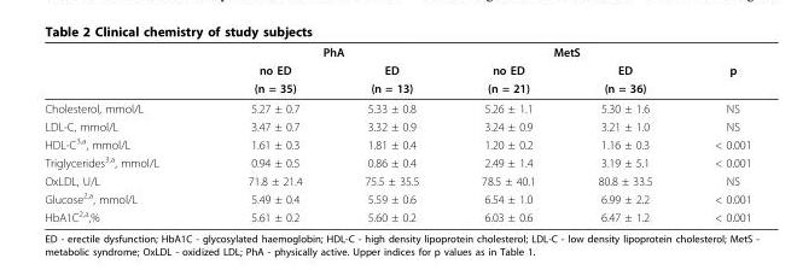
<table><thead><tr><td rowspan="3"></td><td colspan="2">PhA</td><td colspan="2">MetS</td><td rowspan="3">p</td></tr><tr><td rowspan="2">no ED (n = 35)</td><td rowspan="2">ED (n = 13)</td><td rowspan="2">no ED (n = 21)</td><td rowspan="2">ED (n = 36)</td></tr><tr></tr></thead><tbody><tr><td>Cholesterol, mmol/L</td><td>5.27 ± 0.7</td><td>5.33 ± 0.8</td><td>5.26 ± 1.1</td><td>5.30 ± 1.6</td><td>NS</td></tr><tr><td>LDL-C, mmol/L</td><td>3.47 ± 0.7</td><td>3.32 ± 0.9</td><td>3.24 ± 0.9</td><td>3.21 ± 1.0</td><td>NS</td></tr><tr><td>HDL-C<sup>3,a</sup>, mmol/L</td><td>1.61 ± 0.3</td><td>1.81 ± 0.4</td><td>1.20 ± 0.2</td><td>1.16 ± 0.3</td><td>&lt; 0.001</td></tr><tr><td>Triglycerides<sup>3,a</sup>, mmol/L</td><td>0.94 ± 0.5</td><td>0.86 ± 0.4</td><td>2.49 ± 1.4</td><td>3.19 ± 5.1</td><td>&lt; 0.001</td></tr><tr><td>OxLDL, U/L</td><td>71.8 ± 21.4</td><td>75.5 ± 35.5</td><td>78.5 ± 40.1</td><td>80.8 ± 33.5</td><td>NS</td></tr><tr><td>Glucose<sup>2,a</sup>, mmol/L</td><td>5.49 ± 0.4</td><td>5.59 ± 0.6</td><td>6.54 ± 1.0</td><td>6.99 ± 2.2</td><td>&lt; 0.001</td></tr><tr><td>HbA1C<sup>2,a</sup>,%</td><td>5.61 ± 0.2</td><td>5.60 ± 0.2</td><td>6.03 ± 0.6</td><td>6.47 ± 1.2</td><td>&lt; 0.001</td></tr></tbody></table>